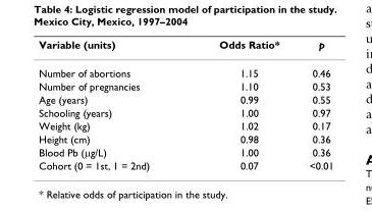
<table><thead><tr><td>Variable (units)</td><td>Odds Ratio*</td><td>p</td></tr></thead><tbody><tr><td>Number of abortions</td><td>1.15</td><td>0.46</td></tr><tr><td>Number of pregnancies</td><td>1.10</td><td>0.53</td></tr><tr><td>Age (years)</td><td>0.99</td><td>0.55</td></tr><tr><td>Schooling (years)</td><td>1.00</td><td>0.97</td></tr><tr><td>Weight (kg)</td><td>1.02</td><td>0.17</td></tr><tr><td>Height (cm)</td><td>0.98</td><td>0.36</td></tr><tr><td>Blood Pb (µg/L)</td><td>1.00</td><td>0.36</td></tr><tr><td>Cohort (0 = 1st, 1 = 2nd)</td><td>0.07</td><td>&lt;0.01</td></tr></tbody></table>